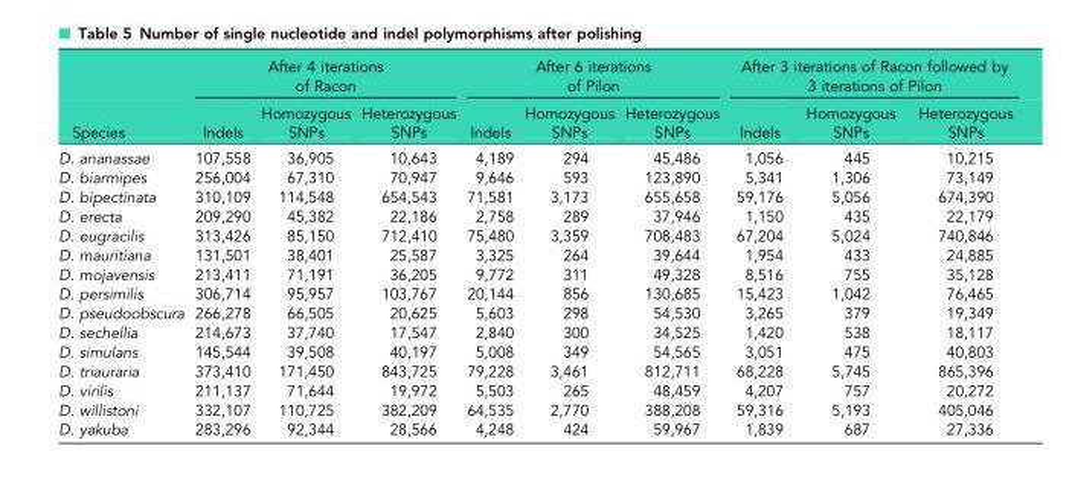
<table><thead><tr><td rowspan="2">Species</td><td colspan="3">After 4 iterations of Racon</td><td colspan="3">After 6 iterations of Pilon</td><td colspan="3">After 3 iterations of Racon followed by 3 iterations of Pilon</td></tr><tr><td>Indels</td><td>Homozygous SNPs</td><td>Heterozygous SNPs</td><td>Indels</td><td>Homozygous SNPs</td><td>Heterozygous SNPs</td><td>Indels</td><td>Homozygous SNPs</td><td>Heterozygous SNPs</td></tr></thead><tbody><tr><td>D. ananassae</td><td>107,558</td><td>36,905</td><td>10,643</td><td>4,189</td><td>294</td><td>45,486</td><td>1,056</td><td>445</td><td>10,215</td></tr><tr><td>D. biarmipes</td><td>256,004</td><td>67,310</td><td>70,947</td><td>9,646</td><td>593</td><td>123,890</td><td>5,341</td><td>1,306</td><td>73,149</td></tr><tr><td>D. bipectinata</td><td>310,109</td><td>114,548</td><td>654,543</td><td>71,581</td><td>3,173</td><td>655,658</td><td>59,176</td><td>5,056</td><td>674,390</td></tr><tr><td>D. erecta</td><td>209,290</td><td>45,382</td><td>22,186</td><td>2,758</td><td>289</td><td>37,946</td><td>1,150</td><td>435</td><td>22,179</td></tr><tr><td>D. eugracilis</td><td>313,426</td><td>85,150</td><td>712,410</td><td>75,480</td><td>3,359</td><td>708,483</td><td>67,204</td><td>5,024</td><td>740,846</td></tr><tr><td>D. mauritiana</td><td>131,501</td><td>38,401</td><td>25,587</td><td>3,325</td><td>264</td><td>39,644</td><td>1,954</td><td>433</td><td>24,885</td></tr><tr><td>D. mojavensis</td><td>213,411</td><td>71,191</td><td>36,205</td><td>9,772</td><td>311</td><td>49,328</td><td>8,516</td><td>755</td><td>35,128</td></tr><tr><td>D. persimilis</td><td>306,714</td><td>95,957</td><td>103,767</td><td>20,144</td><td>856</td><td>130,685</td><td>15,423</td><td>1,042</td><td>76,465</td></tr><tr><td>D. pseudoobscura</td><td>266,278</td><td>66,505</td><td>20,625</td><td>5,603</td><td>298</td><td>54,530</td><td>3,265</td><td>379</td><td>19,349</td></tr><tr><td>D. sechellia</td><td>214,673</td><td>37,740</td><td>17,547</td><td>2,840</td><td>300</td><td>34,525</td><td>1,420</td><td>538</td><td>18,117</td></tr><tr><td>D. simulans</td><td>145,544</td><td>39,508</td><td>40,197</td><td>5,008</td><td>349</td><td>54,565</td><td>3,051</td><td>475</td><td>40,803</td></tr><tr><td>D. triauraria</td><td>373,410</td><td>171,450</td><td>843,725</td><td>79,228</td><td>3,461</td><td>812,711</td><td>68,228</td><td>5,745</td><td>865,396</td></tr><tr><td>D. virilis</td><td>211,137</td><td>71,644</td><td>19,972</td><td>5,503</td><td>265</td><td>48,459</td><td>4,207</td><td>757</td><td>20,272</td></tr><tr><td>D. willistoni</td><td>332,107</td><td>110,725</td><td>382,209</td><td>64,535</td><td>2,770</td><td>388,208</td><td>59,316</td><td>5,193</td><td>405,046</td></tr><tr><td>D. yakuba</td><td>283,296</td><td>92,344</td><td>28,566</td><td>4,248</td><td>424</td><td>59,967</td><td>1,839</td><td>687</td><td>27,336</td></tr></tbody></table>